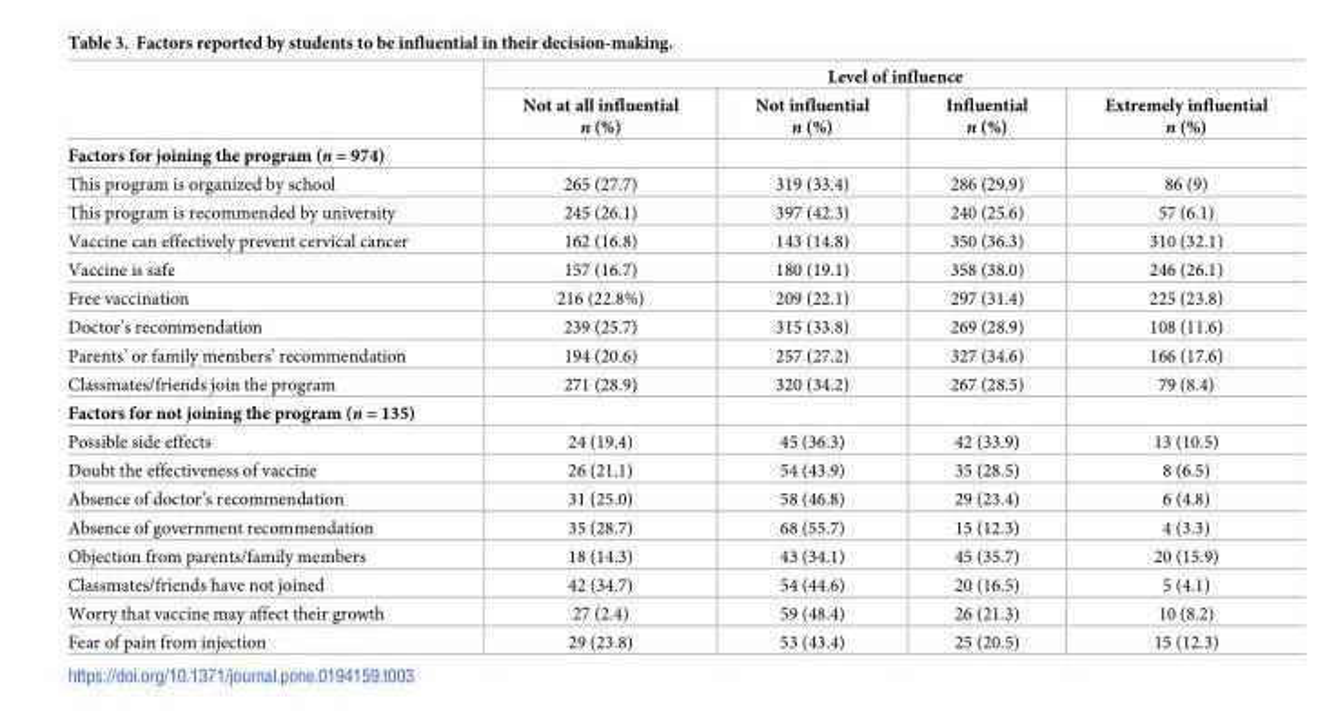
<table><thead><tr><td rowspan="2"></td><td colspan="4">Level of influence</td></tr><tr><td>Not at all influential n (%)</td><td>Not influential n (%)</td><td>Influential n (%)</td><td>Extremely influential n (%)</td></tr></thead><tbody><tr><td colspan="5">Factors for joining the program (n = 974)</td></tr><tr><td>This program is organized by school</td><td>265 (27.7)</td><td>319 (33.4)</td><td>286 (29.9)</td><td>86 (9)</td></tr><tr><td>This program is recommended by university</td><td>245 (26.1)</td><td>397 (42.3)</td><td>240 (25.6)</td><td>57 (6.1)</td></tr><tr><td>Vaccine can effectively prevent cervical cancer</td><td>162 (16.8)</td><td>143 (14.8)</td><td>350 (36.3)</td><td>310 (32.1)</td></tr><tr><td>Vaccine is safe</td><td>157 (16.7)</td><td>180 (19.1)</td><td>358 (38.0)</td><td>246 (26.1)</td></tr><tr><td>Free vaccination</td><td>216 (22.8%)</td><td>209 (22.1)</td><td>297 (31.4)</td><td>225 (23.8)</td></tr><tr><td>Doctor’s recommendation</td><td>239 (25.7)</td><td>315 (33.8)</td><td>269 (28.9)</td><td>108 (11.6)</td></tr><tr><td>Parents’ or family members’ recommendation</td><td>194 (20.6)</td><td>257 (27.2)</td><td>327 (34.6)</td><td>166 (17.6)</td></tr><tr><td>Classmates/friends join the program</td><td>271 (28.9)</td><td>320 (34.2)</td><td>267 (28.5)</td><td>79 (8.4)</td></tr><tr><td colspan="5">Factors for not joining the program (n = 135)</td></tr><tr><td>Possible side effects</td><td>24 (19.4)</td><td>45 (36.3)</td><td>42 (33.9)</td><td>13 (10.5)</td></tr><tr><td>Doubt the effectiveness of vaccine</td><td>26 (21.1)</td><td>54 (43.9)</td><td>35 (28.5)</td><td>8 (6.5)</td></tr><tr><td>Absence of doctor’s recommendation</td><td>31 (25.0)</td><td>58 (46.8)</td><td>29 (23.4)</td><td>6 (4.8)</td></tr><tr><td>Absence of government recommendation</td><td>35 (28.7)</td><td>68 (55.7)</td><td>15 (12.3)</td><td>4 (3.3)</td></tr><tr><td>Objection from parents/family members</td><td>18 (14.3)</td><td>43 (34.1)</td><td>45 (35.7)</td><td>20 (15.9)</td></tr><tr><td>Classmates/friends have not joined</td><td>42 (34.7)</td><td>54 (44.6)</td><td>20 (16.5)</td><td>5 (4.1)</td></tr><tr><td>Worry that vaccine may affect their growth</td><td>27 (2.4)</td><td>59 (48.4)</td><td>26 (21.3)</td><td>10 (8.2)</td></tr><tr><td>Fear of pain from injection</td><td>29 (23.8)</td><td>53 (43.4)</td><td>25 (20.5)</td><td>15 (12.3)</td></tr></tbody></table>